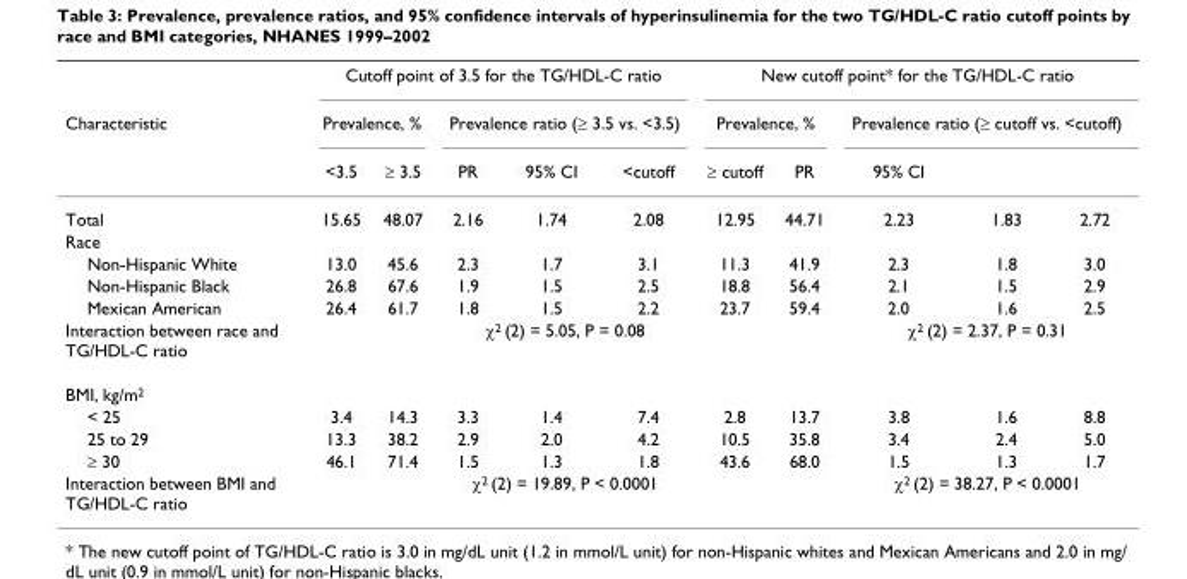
<table><thead><tr><td rowspan="3">Characteristic</td><td colspan="5">Cutoff point of 3.5 for the TG/HDL-C ratio</td><td colspan="5">New cutoff point* for the TG/HDL-C ratio</td></tr><tr><td colspan="2">Prevalence, %</td><td colspan="3">Prevalence ratio (≥ 3.5 vs. &lt;3.5)</td><td colspan="2">Prevalence, %</td><td colspan="3">Prevalence ratio (≥ cutoff vs. &lt;cutoff)</td></tr><tr><td>&lt;3.5</td><td>≥ 3.5</td><td>PR</td><td>95% CI</td><td>&lt;cutoff</td><td>≥ cutoff</td><td>PR</td><td>95% CI</td><td></td><td></td></tr></thead><tbody><tr><td>Total</td><td>15.65</td><td>48.07</td><td>2.16</td><td>1.74</td><td>2.08</td><td>12.95</td><td>44.71</td><td>2.23</td><td>1.83</td><td>2.72</td></tr><tr><td colspan="11">Race</td></tr><tr><td>Non-Hispanic White</td><td>13.0</td><td>45.6</td><td>2.3</td><td>1.7</td><td>3.1</td><td>11.3</td><td>41.9</td><td>2.3</td><td>1.8</td><td>3.0</td></tr><tr><td>Non-Hispanic Black</td><td>26.8</td><td>67.6</td><td>1.9</td><td>1.5</td><td>2.5</td><td>18.8</td><td>56.4</td><td>2.1</td><td>1.5</td><td>2.9</td></tr><tr><td>Mexican American</td><td>26.4</td><td>61.7</td><td>1.8</td><td>1.5</td><td>2.2</td><td>23.7</td><td>59.4</td><td>2.0</td><td>1.6</td><td>2.5</td></tr><tr><td>Interaction between race and TG/HDL-C ratio</td><td></td><td></td><td colspan="3">χ<sup>2</sup> (2) = 5.05, P = 0.08</td><td></td><td></td><td colspan="3">χ<sup>2</sup> (2) = 2.37, P = 0.31</td></tr><tr><td colspan="11">BMI, kg/m<sup>2</sup></td></tr><tr><td>&lt; 25</td><td>3.4</td><td>14.3</td><td>3.3</td><td>1.4</td><td>7.4</td><td>2.8</td><td>13.7</td><td>3.8</td><td>1.6</td><td>8.8</td></tr><tr><td>25 to 29</td><td>13.3</td><td>38.2</td><td>2.9</td><td>2.0</td><td>4.2</td><td>10.5</td><td>35.8</td><td>3.4</td><td>2.4</td><td>5.0</td></tr><tr><td>≥ 30</td><td>46.1</td><td>71.4</td><td>1.5</td><td>1.3</td><td>1.8</td><td>43.6</td><td>68.0</td><td>1.5</td><td>1.3</td><td>1.7</td></tr><tr><td>Interaction between BMI and TG/HDL-C ratio</td><td></td><td></td><td colspan="3">χ<sup>2</sup> (2) = 19.89, P &lt; 0.0001</td><td></td><td></td><td colspan="3">χ<sup>2</sup> (2) = 38.27, P &lt; 0.0001</td></tr></tbody></table>